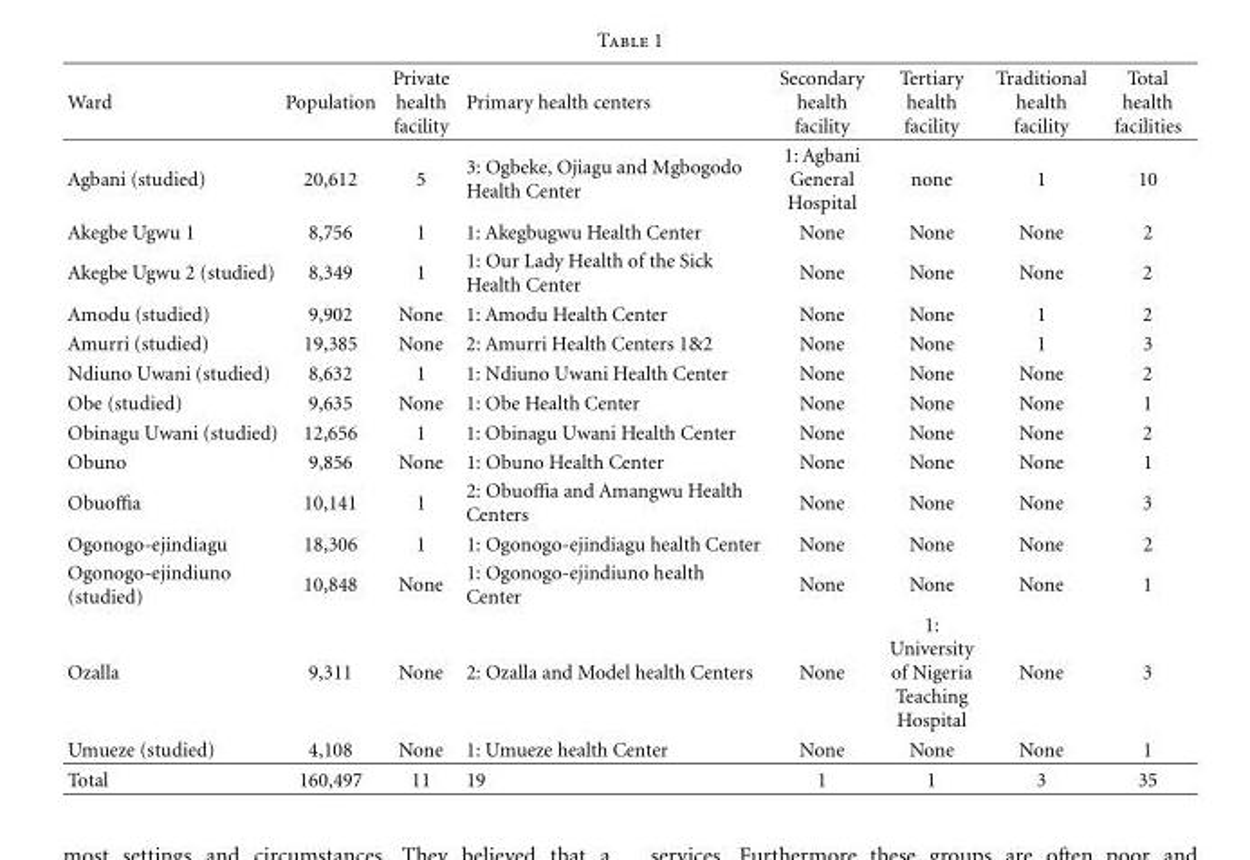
<table><thead><tr><td>Ward</td><td>Population</td><td>Private health facility</td><td>Primary health centers</td><td>Secondary health facility</td><td>Tertiary health facility</td><td>Traditional health facility</td><td>Total health facilities</td></tr></thead><tbody><tr><td>Agbani (studied)</td><td>20,612</td><td>5</td><td>3: Ogbeke, Ojiagu and Mgbogodo Health Center</td><td>1: Agbani General Hospital</td><td>none</td><td>1</td><td>10</td></tr><tr><td>Akegbe Ugwu 1</td><td>8,756</td><td>1</td><td>1: Akegbugwu Health Center</td><td>None</td><td>None</td><td>None</td><td>2</td></tr><tr><td>Akegbe Ugwu 2 (studied)</td><td>8,349</td><td>1</td><td>1: Our Lady Health of the Sick Health Center</td><td>None</td><td>None</td><td>None</td><td>2</td></tr><tr><td>Amodu (studied)</td><td>9,902</td><td>None</td><td>1: Amodu Health Center</td><td>None</td><td>None</td><td>1</td><td>2</td></tr><tr><td>Amurri (studied)</td><td>19,385</td><td>None</td><td>2: Amurri Health Centers 1&amp;2</td><td>None</td><td>None</td><td>1</td><td>3</td></tr><tr><td>Ndiuno Uwani (studied)</td><td>8,632</td><td>1</td><td>1: Ndiuno Uwani Health Center</td><td>None</td><td>None</td><td>None</td><td>2</td></tr><tr><td>Obe (studied)</td><td>9,635</td><td>None</td><td>1: Obe Health Center</td><td>None</td><td>None</td><td>None</td><td>1</td></tr><tr><td>Obinagu Uwani (studied)</td><td>12,656</td><td>1</td><td>1: Obinagu Uwani Health Center</td><td>None</td><td>None</td><td>None</td><td>2</td></tr><tr><td>Obuno</td><td>9,856</td><td>None</td><td>1: Obuno Health Center</td><td>None</td><td>None</td><td>None</td><td>1</td></tr><tr><td>Obuoffia</td><td>10,141</td><td>1</td><td>2: Obuoffia and Amangwu Health Centers</td><td>None</td><td>None</td><td>None</td><td>3</td></tr><tr><td>Ogonogo-ejindiagu</td><td>18,306</td><td>1</td><td>1: Ogonogo-ejindiagu health Center</td><td>None</td><td>None</td><td>None</td><td>2</td></tr><tr><td>Ogonogo-ejindiuno (studied)</td><td>10,848</td><td>None</td><td>1: Ogonogo-ejindiuno health Center</td><td>None</td><td>None</td><td>None</td><td>1</td></tr><tr><td>Ozalla</td><td>9,311</td><td>None</td><td>2: Ozalla and Model health Centers</td><td>None</td><td>1: University of Nigeria Teaching Hospital</td><td>None</td><td>3</td></tr><tr><td>Umueze (studied)</td><td>4,108</td><td>None</td><td>1: Umueze health Center</td><td>None</td><td>None</td><td>None</td><td>1</td></tr><tr><td>Total</td><td>160,497</td><td>11</td><td>19</td><td>1</td><td>1</td><td>3</td><td>35</td></tr></tbody></table>